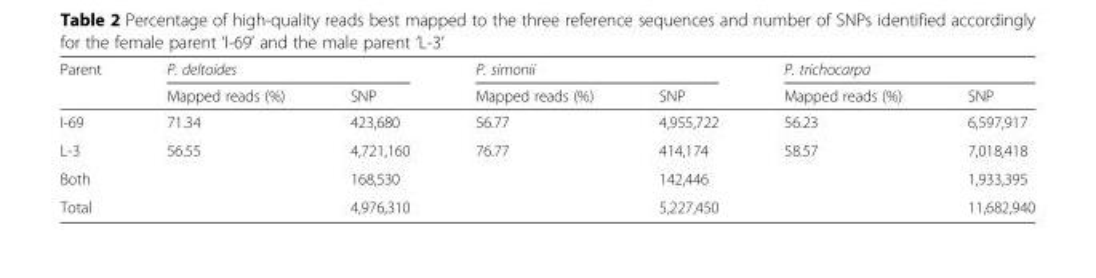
<table><thead><tr><td rowspan="2">Parent</td><td colspan="2">P. deltoides</td><td colspan="2">P. simonii</td><td colspan="2">P. trichocarpa</td></tr><tr><td>Mapped reads (%)</td><td>SNP</td><td>Mapped reads (%)</td><td>SNP</td><td>Mapped reads (%)</td><td>SNP</td></tr></thead><tbody><tr><td>I-69</td><td>71.34</td><td>423,680</td><td>56.77</td><td>4,955,722</td><td>56.23</td><td>6,597,917</td></tr><tr><td>L-3</td><td>56.55</td><td>4,721,160</td><td>76.77</td><td>414,174</td><td>58.57</td><td>7,018,418</td></tr><tr><td>Both</td><td></td><td>168,530</td><td></td><td>142,446</td><td></td><td>1,933,395</td></tr><tr><td>Total</td><td></td><td>4,976,310</td><td></td><td>5,227,450</td><td></td><td>11,682,940</td></tr></tbody></table>